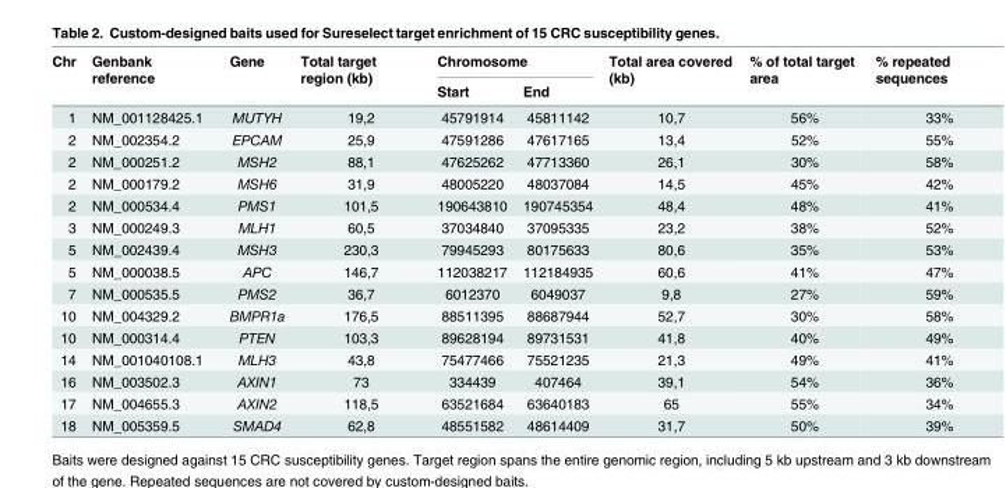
<table><thead><tr><td rowspan="2">Chr</td><td rowspan="2">Genbank reference</td><td rowspan="2">Gene</td><td rowspan="2">Total target region (kb)</td><td colspan="2">Chromosome</td><td rowspan="2">Total area covered (kb)</td><td rowspan="2">% of total target area</td><td rowspan="2">% repeated sequences</td></tr><tr><td>Start</td><td>End</td></tr></thead><tbody><tr><td>1</td><td>NM_001128425.1</td><td>MUTYH</td><td>19,2</td><td>45791914</td><td>45811142</td><td>10,7</td><td>56%</td><td>33%</td></tr><tr><td>2</td><td>NM_002354.2</td><td>EPCAM</td><td>25,9</td><td>47591286</td><td>47617165</td><td>13,4</td><td>52%</td><td>55%</td></tr><tr><td>2</td><td>NM_000251.2</td><td>MSH2</td><td>88,1</td><td>47625262</td><td>47713360</td><td>26,1</td><td>30%</td><td>58%</td></tr><tr><td>2</td><td>NM_000179.2</td><td>MSH6</td><td>31,9</td><td>48005220</td><td>48037084</td><td>14,5</td><td>45%</td><td>42%</td></tr><tr><td>2</td><td>NM_000534.4</td><td>PMS1</td><td>101,5</td><td>190643810</td><td>190745354</td><td>48,4</td><td>48%</td><td>41%</td></tr><tr><td>3</td><td>NM_000249.3</td><td>MLH1</td><td>60,5</td><td>37034840</td><td>37095335</td><td>23,2</td><td>38%</td><td>52%</td></tr><tr><td>5</td><td>NM_002439.4</td><td>MSH3</td><td>230,3</td><td>79945293</td><td>80175633</td><td>80,6</td><td>35%</td><td>53%</td></tr><tr><td>5</td><td>NM_000038.5</td><td>APC</td><td>146,7</td><td>112038217</td><td>112184935</td><td>60,6</td><td>41%</td><td>47%</td></tr><tr><td>7</td><td>NM_000535.5</td><td>PMS2</td><td>36,7</td><td>6012370</td><td>6049037</td><td>9,8</td><td>27%</td><td>59%</td></tr><tr><td>10</td><td>NM_004329.2</td><td>BMPR1a</td><td>176,5</td><td>88511395</td><td>88687944</td><td>52,7</td><td>30%</td><td>58%</td></tr><tr><td>10</td><td>NM_000314.4</td><td>PTEN</td><td>103,3</td><td>89628194</td><td>89731531</td><td>41,8</td><td>40%</td><td>49%</td></tr><tr><td>14</td><td>NM_001040108.1</td><td>MLH3</td><td>43,8</td><td>75477466</td><td>75521235</td><td>21,3</td><td>49%</td><td>41%</td></tr><tr><td>16</td><td>NM_003502.3</td><td>AXIN1</td><td>73</td><td>334439</td><td>407464</td><td>39,1</td><td>54%</td><td>36%</td></tr><tr><td>17</td><td>NM_004655.3</td><td>AXIN2</td><td>118,5</td><td>63521684</td><td>63640183</td><td>65</td><td>55%</td><td>34%</td></tr><tr><td>18</td><td>NM_005359.5</td><td>SMAD4</td><td>62,8</td><td>48551582</td><td>48614409</td><td>31,7</td><td>50%</td><td>39%</td></tr></tbody></table>